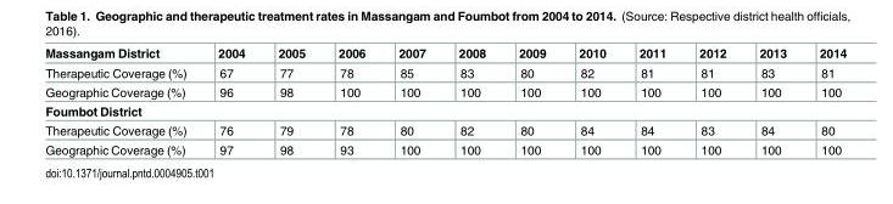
<table><thead><tr><td>Massangam District</td><td>2004</td><td>2005</td><td>2006</td><td>2007</td><td>2008</td><td>2009</td><td>2010</td><td>2011</td><td>2012</td><td>2013</td><td>2014</td></tr></thead><tbody><tr><td>Therapeutic Coverage (%)</td><td>67</td><td>77</td><td>78</td><td>85</td><td>83</td><td>80</td><td>82</td><td>81</td><td>81</td><td>83</td><td>81</td></tr><tr><td>Geographic Coverage (%)</td><td>96</td><td>98</td><td>100</td><td>100</td><td>100</td><td>100</td><td>100</td><td>100</td><td>100</td><td>100</td><td>100</td></tr><tr><td colspan="12">Foumbot District</td></tr><tr><td>Therapeutic Coverage (%)</td><td>76</td><td>79</td><td>78</td><td>80</td><td>82</td><td>80</td><td>84</td><td>84</td><td>83</td><td>84</td><td>80</td></tr><tr><td>Geographic Coverage (%)</td><td>97</td><td>98</td><td>93</td><td>100</td><td>100</td><td>100</td><td>100</td><td>100</td><td>100</td><td>100</td><td>100</td></tr></tbody></table>